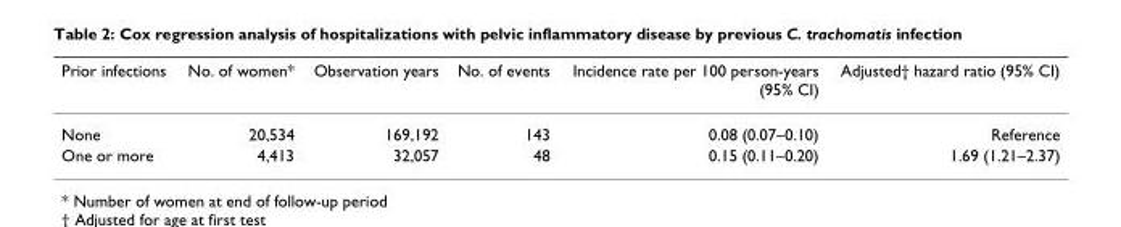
<table><thead><tr><td>Prior infections</td><td>No. of women*</td><td>Observation years</td><td>No. of events</td><td>Incidence rate per 100 person-years (95% CI)</td><td>Adjusted† hazard ratio (95% CI)</td></tr></thead><tbody><tr><td>None</td><td>20,534</td><td>169,192</td><td>143</td><td>0.08 (0.07–0.10)</td><td>Reference</td></tr><tr><td>One or more</td><td>4,413</td><td>32,057</td><td>48</td><td>0.15 (0.11–0.20)</td><td>1.69 (1.21–2.37)</td></tr></tbody></table>